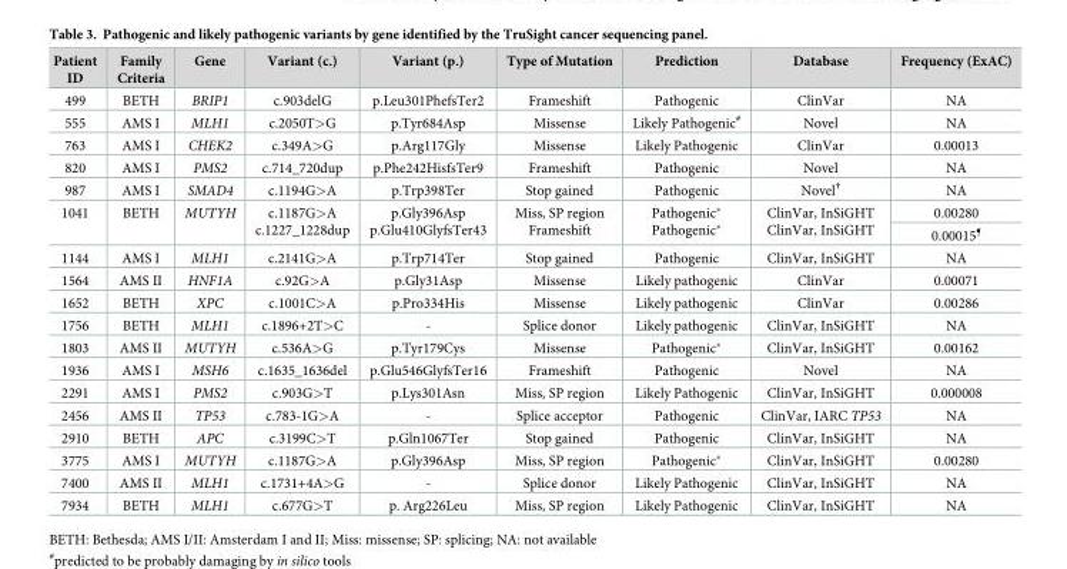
<table><thead><tr><td>Patient ID</td><td>Family Criteria</td><td>Gene</td><td>Variant (c.)</td><td>Variant (p.)</td><td>Type of Mutation</td><td>Prediction</td><td>Database</td><td>Frequency (ExAC)</td></tr></thead><tbody><tr><td>499</td><td>BETH</td><td>BRIP1</td><td>c.903delG</td><td>p.Leu301PhefsTer2</td><td>Frameshift</td><td>Pathogenic</td><td>ClinVar</td><td>NA</td></tr><tr><td>555</td><td>AMS I</td><td>MLH1</td><td>c.2050T&gt;G</td><td>p.Tyr684Asp</td><td>Missense</td><td>Likely Pathogenic<sup>#</sup></td><td>Novel</td><td>NA</td></tr><tr><td>763</td><td>AMS I</td><td>CHEK2</td><td>c.349A&gt;G</td><td>p.Arg117Gly</td><td>Missense</td><td>Likely Pathogenic</td><td>ClinVar</td><td>0.00013</td></tr><tr><td>820</td><td>AMS I</td><td>PMS2</td><td>c.714_720dup</td><td>p.Phe242HisfsTer9</td><td>Frameshift</td><td>Pathogenic</td><td>Novel</td><td>NA</td></tr><tr><td>987</td><td>AMS I</td><td>SMAD4</td><td>c.1194G&gt;A</td><td>p.Trp398Ter</td><td>Stop gained</td><td>Pathogenic</td><td>Novel<sup>†</sup></td><td>NA</td></tr><tr><td rowspan="2">1041</td><td rowspan="2">BETH</td><td rowspan="2">MUTYH</td><td rowspan="2">c.1187G&gt;A c.1227_1228dup</td><td rowspan="2">p.Gly396Asp p.Glu410GlyfsTer43</td><td rowspan="2">Miss, SP region Frameshift</td><td rowspan="2">Pathogenic* Pathogenic*</td><td rowspan="2">ClinVar, InSiGHT ClinVar, InSiGHT</td><td>0.00280</td></tr><tr><td>0.00015<sup>¶</sup></td></tr><tr><td>1144</td><td>AMS I</td><td>MLH1</td><td>c.2141G&gt;A</td><td>p.Trp714Ter</td><td>Stop gained</td><td>Pathogenic</td><td>ClinVar, InSiGHT</td><td>NA</td></tr><tr><td>1564</td><td>AMS II</td><td>HNF1A</td><td>c.92G&gt;A</td><td>p.Gly31Asp</td><td>Missense</td><td>Likely pathogenic</td><td>ClinVar</td><td>0.00071</td></tr><tr><td>1652</td><td>BETH</td><td>XPC</td><td>c.1001C&gt;A</td><td>p.Pro334His</td><td>Missense</td><td>Likely pathogenic</td><td>ClinVar</td><td>0.00286</td></tr><tr><td>1756</td><td>BETH</td><td>MLH1</td><td>c.1896+2T&gt;C</td><td>-</td><td>Splice donor</td><td>Likely pathogenic</td><td>ClinVar, InSiGHT</td><td>NA</td></tr><tr><td>1803</td><td>AMS II</td><td>MUTYH</td><td>c.536A&gt;G</td><td>p.Tyr179Cys</td><td>Missense</td><td>Pathogenic*</td><td>ClinVar, InSiGHT</td><td>0.00162</td></tr><tr><td>1936</td><td>AMS I</td><td>MSH6</td><td>c.1635_1636del</td><td>p.Glu546GlyfsTer16</td><td>Frameshift</td><td>Pathogenic</td><td>Novel</td><td>NA</td></tr><tr><td>2291</td><td>AMS I</td><td>PMS2</td><td>c.903G&gt;T</td><td>p.Lys301Asn</td><td>Miss, SP region</td><td>Likely Pathogenic</td><td>ClinVar, InSiGHT</td><td>0.000008</td></tr><tr><td>2456</td><td>AMS II</td><td>TP53</td><td>c.783-1G&gt;A</td><td>-</td><td>Splice acceptor</td><td>Pathogenic</td><td>ClinVar, IARC TP53</td><td>NA</td></tr><tr><td>2910</td><td>BETH</td><td>APC</td><td>c.3199C&gt;T</td><td>p.Gln1067Ter</td><td>Stop gained</td><td>Pathogenic</td><td>ClinVar, InSiGHT</td><td>NA</td></tr><tr><td>3775</td><td>AMS I</td><td>MUTYH</td><td>c.1187G&gt;A</td><td>p.Gly396Asp</td><td>Miss, SP region</td><td>Pathogenic*</td><td>ClinVar, InSiGHT</td><td>0.00280</td></tr><tr><td>7400</td><td>AMS II</td><td>MLH1</td><td>c.1731+4A&gt;G</td><td>-</td><td>Splice donor</td><td>Likely Pathogenic</td><td>ClinVar, InSiGHT</td><td>NA</td></tr><tr><td>7934</td><td>BETH</td><td>MLH1</td><td>c.677G&gt;T</td><td>p. Arg226Leu</td><td>Miss, SP region</td><td>Likely Pathogenic</td><td>ClinVar, InSiGHT</td><td>NA</td></tr></tbody></table>